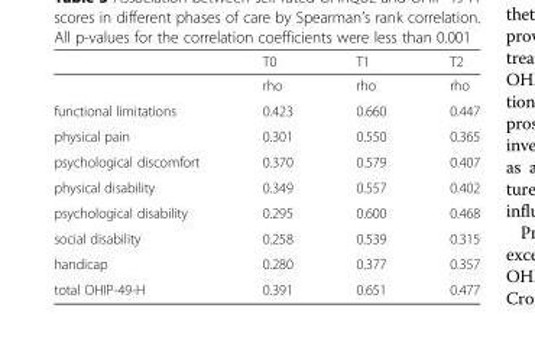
<table><thead><tr><td></td><td>T0</td><td>T1</td><td>T2</td></tr></thead><tbody><tr><td></td><td>rho</td><td>rho</td><td>rho</td></tr><tr><td>functional limitations</td><td>0.423</td><td>0.660</td><td>0.447</td></tr><tr><td>physical pain</td><td>0.301</td><td>0.550</td><td>0.365</td></tr><tr><td>psychological discomfort</td><td>0.370</td><td>0.579</td><td>0.407</td></tr><tr><td>physical disability</td><td>0.349</td><td>0.557</td><td>0.402</td></tr><tr><td>psychological disability</td><td>0.295</td><td>0.600</td><td>0.468</td></tr><tr><td>social disability</td><td>0.258</td><td>0.539</td><td>0.315</td></tr><tr><td>handicap</td><td>0.280</td><td>0.377</td><td>0.357</td></tr><tr><td>total OHIP-49-H</td><td>0.391</td><td>0.651</td><td>0.477</td></tr></tbody></table>